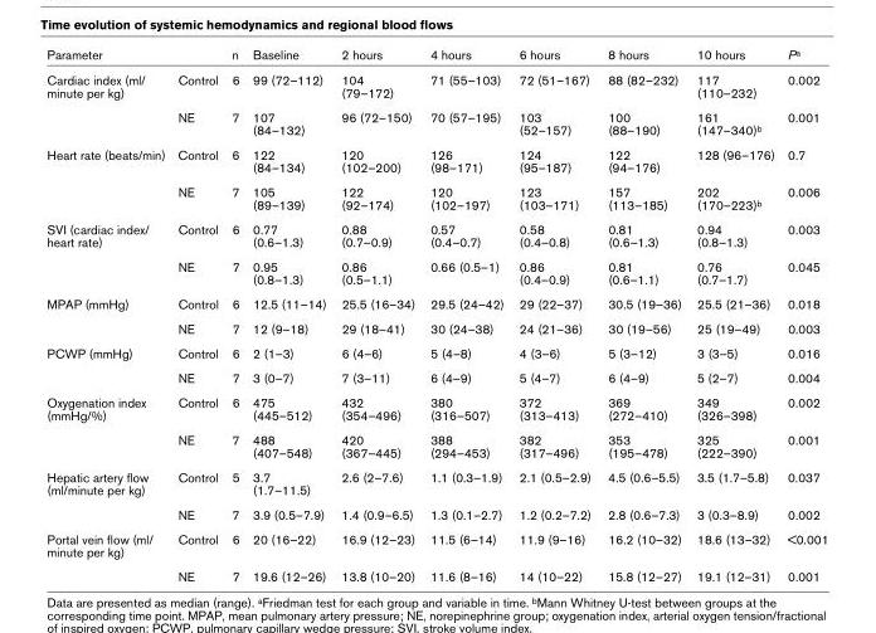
<table><thead><tr><td>Parameter</td><td></td><td>n</td><td>Baseline</td><td>2 hours</td><td>4 hours</td><td>6 hours</td><td>8 hours</td><td>10 hours</td><td>P<sup>a</sup></td></tr></thead><tbody><tr><td rowspan="2">Cardiac index (ml/ minute per kg)</td><td>Control</td><td>6</td><td>99 (72–112)</td><td>104 (79–172)</td><td>71 (55–103)</td><td>72 (51–167)</td><td>88 (82–232)</td><td>117 (110–232)</td><td>0.002</td></tr><tr><td>NE</td><td>7</td><td>107 (84–132)</td><td>96 (72–150)</td><td>70 (57–195)</td><td>103 (52–157)</td><td>100 (88–190)</td><td>161 (147–340)<sup>b</sup></td><td>0.001</td></tr><tr><td rowspan="2">Heart rate (beats/min)</td><td>Control</td><td>6</td><td>122 (84–134)</td><td>120 (102–200)</td><td>126 (98–171)</td><td>124 (95–187)</td><td>122 (94–176)</td><td>128 (96–176)</td><td>0.7</td></tr><tr><td>NE</td><td>7</td><td>105 (89–139)</td><td>122 (92–174)</td><td>120 (102–197)</td><td>123 (103–171)</td><td>157 (113–185)</td><td>202 (170–223)<sup>b</sup></td><td>0.006</td></tr><tr><td rowspan="2">SVI (cardiac index/ heart rate)</td><td>Control</td><td>6</td><td>0.77 (0.6–1.3)</td><td>0.88 (0.7–0.9)</td><td>0.57 (0.4–0.7)</td><td>0.58 (0.4–0.8)</td><td>0.81 (0.6–1.3)</td><td>0.94 (0.8–1.3)</td><td>0.003</td></tr><tr><td>NE</td><td>7</td><td>0.95 (0.8–1.3)</td><td>0.86 (0.5–1.1)</td><td>0.66 (0.5–1)</td><td>0.86 (0.4–0.9)</td><td>0.81 (0.6–1.1)</td><td>0.76 (0.7–1.7)</td><td>0.045</td></tr><tr><td rowspan="2">MPAP (mmHg)</td><td>Control</td><td>6</td><td>12.5 (11–14)</td><td>25.5 (16–34)</td><td>29.5 (24–42)</td><td>29 (22–37)</td><td>30.5 (19–36)</td><td>25.5 (21–36)</td><td>0.018</td></tr><tr><td>NE</td><td>7</td><td>12 (9–18)</td><td>29 (18–41)</td><td>30 (24–38)</td><td>24 (21–36)</td><td>30 (19–56)</td><td>25 (19–49)</td><td>0.003</td></tr><tr><td rowspan="2">PCWP (mmHg)</td><td>Control</td><td>6</td><td>2 (1–3)</td><td>6 (4–6)</td><td>5 (4–8)</td><td>4 (3–6)</td><td>5 (3–12)</td><td>3 (3–5)</td><td>0.016</td></tr><tr><td>NE</td><td>7</td><td>3 (0–7)</td><td>7 (3–11)</td><td>6 (4–9)</td><td>5 (4–7)</td><td>6 (4–9)</td><td>5 (2–7)</td><td>0.004</td></tr><tr><td rowspan="2">Oxygenation index (mmHg/%)</td><td>Control</td><td>6</td><td>475 (445–512)</td><td>432 (354–496)</td><td>380 (316–507)</td><td>372 (313–413)</td><td>369 (272–410)</td><td>349 (326–398)</td><td>0.002</td></tr><tr><td>NE</td><td>7</td><td>488 (407–548)</td><td>420 (367–445)</td><td>388 (294–453)</td><td>382 (317–496)</td><td>353 (195–478)</td><td>325 (222–390)</td><td>0.001</td></tr><tr><td rowspan="2">Hepatic artery flow (ml/minute per kg)</td><td>Control</td><td>5</td><td>3.7 (1.7–11.5)</td><td>2.6 (2–7.6)</td><td>1.1 (0.3–1.9)</td><td>2.1 (0.5–2.9)</td><td>4.5 (0.6–5.5)</td><td>3.5 (1.7–5.8)</td><td>0.037</td></tr><tr><td>NE</td><td>7</td><td>3.9 (0.5–7.9)</td><td>1.4 (0.9–6.5)</td><td>1.3 (0.1–2.7)</td><td>1.2 (0.2–7.2)</td><td>2.8 (0.6–7.3)</td><td>3 (0.3–8.9)</td><td>0.002</td></tr><tr><td rowspan="2">Portal vein flow (ml/ minute per kg)</td><td>Control</td><td>6</td><td>20 (16–22)</td><td>16.9 (12–23)</td><td>11.5 (6–14)</td><td>11.9 (9–16)</td><td>16.2 (10–32)</td><td>18.6 (13–32)</td><td>&lt;0.001</td></tr><tr><td>NE</td><td>7</td><td>19.6 (12–26)</td><td>13.8 (10–20)</td><td>11.6 (8–16)</td><td>14 (10–22)</td><td>15.8 (12–27)</td><td>19.1 (12–31)</td><td>0.001</td></tr></tbody></table>